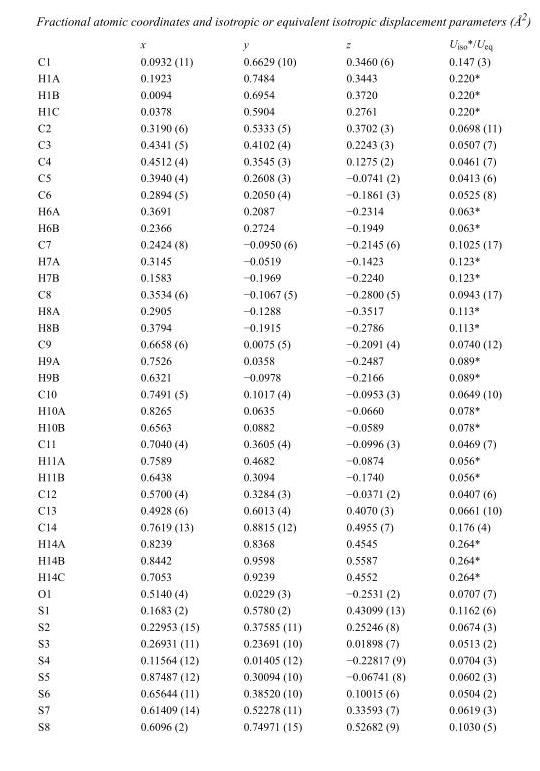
<table><thead><tr><td></td><td>x</td><td>y</td><td>z</td><td>U<sub>iso</sub>*/U<sub>eq</sub></td></tr></thead><tbody><tr><td>C1</td><td>0.0932 (11)</td><td>0.6629 (10)</td><td>0.3460 (6)</td><td>0.147 (3)</td></tr><tr><td>H1A</td><td>0.1923</td><td>0.7484</td><td>0.3443</td><td>0.220*</td></tr><tr><td>H1B</td><td>0.0094</td><td>0.6954</td><td>0.3720</td><td>0.220*</td></tr><tr><td>H1C</td><td>0.0378</td><td>0.5904</td><td>0.2761</td><td>0.220*</td></tr><tr><td>C2</td><td>0.3190 (6)</td><td>0.5333 (5)</td><td>0.3702 (3)</td><td>0.0698 (11)</td></tr><tr><td>C3</td><td>0.4341 (5)</td><td>0.4102 (4)</td><td>0.2243 (3)</td><td>0.0507 (7)</td></tr><tr><td>C4</td><td>0.4512 (4)</td><td>0.3545 (3)</td><td>0.1275 (2)</td><td>0.0461 (7)</td></tr><tr><td>C5</td><td>0.3940 (4)</td><td>0.2608 (3)</td><td>−0.0741 (2)</td><td>0.0413 (6)</td></tr><tr><td>C6</td><td>0.2894 (5)</td><td>0.2050 (4)</td><td>−0.1861 (3)</td><td>0.0525 (8)</td></tr><tr><td>H6A</td><td>0.3691</td><td>0.2087</td><td>−0.2314</td><td>0.063*</td></tr><tr><td>H6B</td><td>0.2366</td><td>0.2724</td><td>−0.1949</td><td>0.063*</td></tr><tr><td>C7</td><td>0.2424 (8)</td><td>−0.0950 (6)</td><td>−0.2145 (6)</td><td>0.1025 (17)</td></tr><tr><td>H7A</td><td>0.3145</td><td>−0.0519</td><td>−0.1423</td><td>0.123*</td></tr><tr><td>H7B</td><td>0.1583</td><td>−0.1969</td><td>−0.2240</td><td>0.123*</td></tr><tr><td>C8</td><td>0.3534 (6)</td><td>−0.1067 (5)</td><td>−0.2800 (5)</td><td>0.0943 (17)</td></tr><tr><td>H8A</td><td>0.2905</td><td>−0.1288</td><td>−0.3517</td><td>0.113*</td></tr><tr><td>H8B</td><td>0.3794</td><td>−0.1915</td><td>−0.2786</td><td>0.113*</td></tr><tr><td>C9</td><td>0.6658 (6)</td><td>0.0075 (5)</td><td>−0.2091 (4)</td><td>0.0740 (12)</td></tr><tr><td>H9A</td><td>0.7526</td><td>0.0358</td><td>−0.2487</td><td>0.089*</td></tr><tr><td>H9B</td><td>0.6321</td><td>−0.0978</td><td>−0.2166</td><td>0.089*</td></tr><tr><td>C10</td><td>0.7491 (5)</td><td>0.1017 (4)</td><td>−0.0953 (3)</td><td>0.0649 (10)</td></tr><tr><td>H10A</td><td>0.8265</td><td>0.0635</td><td>−0.0660</td><td>0.078*</td></tr><tr><td>H10B</td><td>0.6563</td><td>0.0882</td><td>−0.0589</td><td>0.078*</td></tr><tr><td>C11</td><td>0.7040 (4)</td><td>0.3605 (4)</td><td>−0.0996 (3)</td><td>0.0469 (7)</td></tr><tr><td>H11A</td><td>0.7589</td><td>0.4682</td><td>−0.0874</td><td>0.056*</td></tr><tr><td>H11B</td><td>0.6438</td><td>0.3094</td><td>−0.1740</td><td>0.056*</td></tr><tr><td>C12</td><td>0.5700 (4)</td><td>0.3284 (3)</td><td>−0.0371 (2)</td><td>0.0407 (6)</td></tr><tr><td>C13</td><td>0.4928 (6)</td><td>0.6013 (4)</td><td>0.4070 (3)</td><td>0.0661 (10)</td></tr><tr><td>C14</td><td>0.7619 (13)</td><td>0.8815 (12)</td><td>0.4955 (7)</td><td>0.176 (4)</td></tr><tr><td>H14A</td><td>0.8239</td><td>0.8368</td><td>0.4545</td><td>0.264*</td></tr><tr><td>H14B</td><td>0.8442</td><td>0.9598</td><td>0.5587</td><td>0.264*</td></tr><tr><td>H14C</td><td>0.7053</td><td>0.9239</td><td>0.4552</td><td>0.264*</td></tr><tr><td>O1</td><td>0.5140 (4)</td><td>0.0229 (3)</td><td>−0.2531 (2)</td><td>0.0707 (7)</td></tr><tr><td>S1</td><td>0.1683 (2)</td><td>0.5780 (2)</td><td>0.43099 (13)</td><td>0.1162 (6)</td></tr><tr><td>S2</td><td>0.22953 (15)</td><td>0.37585 (11)</td><td>0.25246 (8)</td><td>0.0674 (3)</td></tr><tr><td>S3</td><td>0.26931 (11)</td><td>0.23691 (10)</td><td>0.01898 (7)</td><td>0.0513 (2)</td></tr><tr><td>S4</td><td>0.11564 (12)</td><td>0.01405 (12)</td><td>−0.22817 (9)</td><td>0.0704 (3)</td></tr><tr><td>S5</td><td>0.87487 (12)</td><td>0.30094 (10)</td><td>−0.06741 (8)</td><td>0.0602 (3)</td></tr><tr><td>S6</td><td>0.65644 (11)</td><td>0.38520 (10)</td><td>0.10015 (6)</td><td>0.0504 (2)</td></tr><tr><td>S7</td><td>0.61409 (14)</td><td>0.52278 (11)</td><td>0.33593 (7)</td><td>0.0619 (3)</td></tr><tr><td>S8</td><td>0.6096 (2)</td><td>0.74971 (15)</td><td>0.52682 (9)</td><td>0.1030 (5)</td></tr></tbody></table>